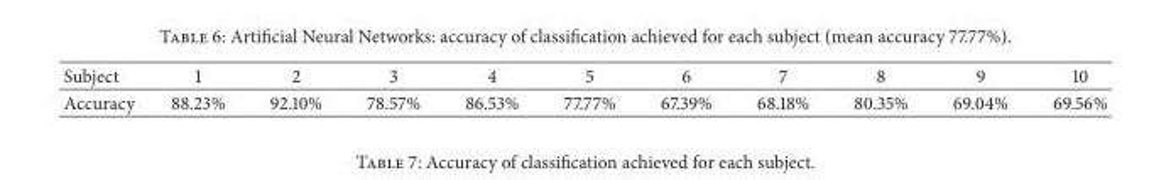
<table><thead><tr><td>Subject</td><td>1</td><td>2</td><td>3</td><td>4</td><td>5</td><td>6</td><td>7</td><td>8</td><td>9</td><td>10</td></tr></thead><tbody><tr><td>Accuracy</td><td>88.23%</td><td>92.10%</td><td>78.57%</td><td>86.53%</td><td>77.77%</td><td>67.39%</td><td>68.18%</td><td>80.35%</td><td>69.04%</td><td>69.56%</td></tr></tbody></table>